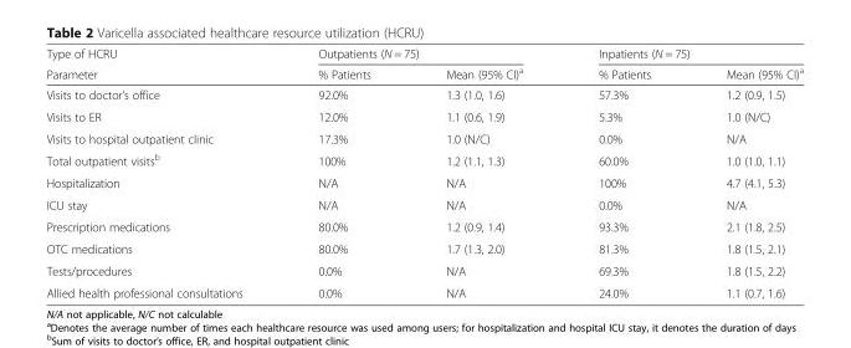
<table><thead><tr><td rowspan="2">Type of HCRU Parameter</td><td colspan="2">Outpatients (N = 75)</td><td colspan="2">Inpatients (N = 75)</td></tr><tr><td>% Patients</td><td>Mean (95% CI)<sup>a</sup></td><td>% Patients</td><td>Mean (95% CI)<sup>a</sup></td></tr></thead><tbody><tr><td>Visits to doctor’s office</td><td>92.0%</td><td>1.3 (1.0, 1.6)</td><td>57.3%</td><td>1.2 (0.9, 1.5)</td></tr><tr><td>Visits to ER</td><td>12.0%</td><td>1.1 (0.6, 1.9)</td><td>5.3%</td><td>1.0 (N/C)</td></tr><tr><td>Visits to hospital outpatient clinic</td><td>17.3%</td><td>1.0 (N/C)</td><td>0.0%</td><td>N/A</td></tr><tr><td>Total outpatient visits<sup>b</sup></td><td>100%</td><td>1.2 (1.1, 1.3)</td><td>60.0%</td><td>1.0 (1.0, 1.1)</td></tr><tr><td>Hospitalization</td><td>N/A</td><td>N/A</td><td>100%</td><td>4.7 (4.1, 5.3)</td></tr><tr><td>ICU stay</td><td>N/A</td><td>N/A</td><td>0.0%</td><td>N/A</td></tr><tr><td>Prescription medications</td><td>80.0%</td><td>1.2 (0.9, 1.4)</td><td>93.3%</td><td>2.1 (1.8, 2.5)</td></tr><tr><td>OTC medications</td><td>80.0%</td><td>1.7 (1.3, 2.0)</td><td>81.3%</td><td>1.8 (1.5, 2.1)</td></tr><tr><td>Tests/procedures</td><td>0.0%</td><td>N/A</td><td>69.3%</td><td>1.8 (1.5, 2.2)</td></tr><tr><td>Allied health professional consultations</td><td>0.0%</td><td>N/A</td><td>24.0%</td><td>1.1 (0.7, 1.6)</td></tr></tbody></table>